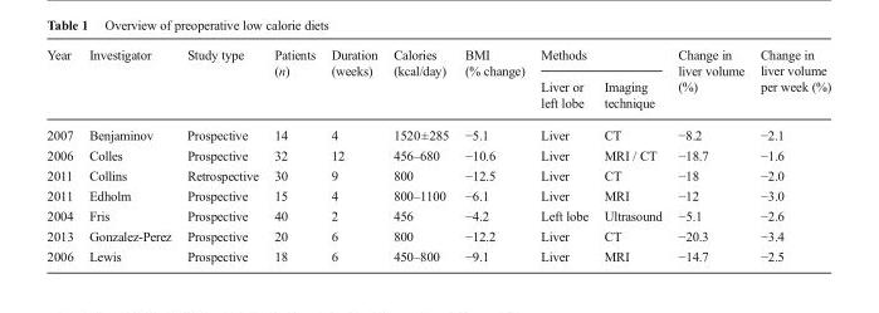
<table><thead><tr><td rowspan="2">Year</td><td rowspan="2">Investigator</td><td rowspan="2">Study type</td><td rowspan="2">Patients (n)</td><td rowspan="2">Duration (weeks)</td><td rowspan="2">Calories (kcal/day)</td><td rowspan="2">BMI (% change)</td><td colspan="2">Methods</td><td rowspan="2">Change in liver volume (%)</td><td rowspan="2">Change in liver volume per week (%)</td></tr><tr><td>Liver or left lobe</td><td>Imaging technique</td></tr></thead><tbody><tr><td>2007</td><td>Benjaminov</td><td>Prospective</td><td>14</td><td>4</td><td>1520±285</td><td>−5.1</td><td>Liver</td><td>CT</td><td>−8.2</td><td>−2.1</td></tr><tr><td>2006</td><td>Colles</td><td>Prospective</td><td>32</td><td>12</td><td>456–680</td><td>−10.6</td><td>Liver</td><td>MRI / CT</td><td>−18.7</td><td>−1.6</td></tr><tr><td>2011</td><td>Collins</td><td>Retrospective</td><td>30</td><td>9</td><td>800</td><td>−12.5</td><td>Liver</td><td>CT</td><td>−18</td><td>−2.0</td></tr><tr><td>2011</td><td>Edholm</td><td>Prospective</td><td>15</td><td>4</td><td>800–1100</td><td>−6.1</td><td>Liver</td><td>MRI</td><td>−12</td><td>−3.0</td></tr><tr><td>2004</td><td>Fris</td><td>Prospective</td><td>40</td><td>2</td><td>456</td><td>−4.2</td><td>Left lobe</td><td>Ultrasound</td><td>−5.1</td><td>−2.6</td></tr><tr><td>2013</td><td>Gonzalez-Perez</td><td>Prospective</td><td>20</td><td>6</td><td>800</td><td>−12.2</td><td>Liver</td><td>CT</td><td>−20.3</td><td>−3.4</td></tr><tr><td>2006</td><td>Lewis</td><td>Prospective</td><td>18</td><td>6</td><td>450–800</td><td>−9.1</td><td>Liver</td><td>MRI</td><td>−14.7</td><td>−2.5</td></tr></tbody></table>